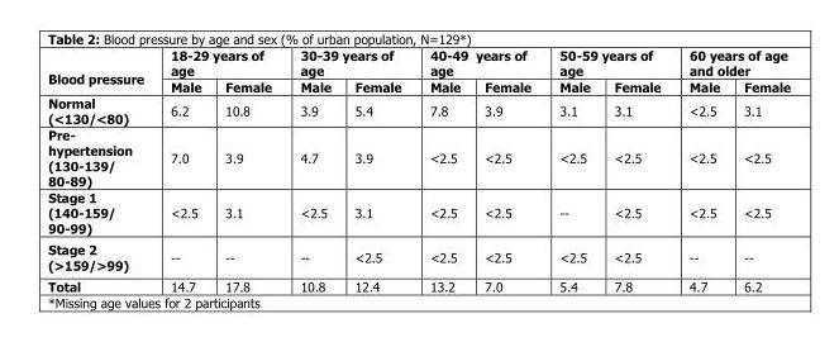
<table><thead><tr><td rowspan="2">Blood pressure</td><td colspan="2">18-29 years of age</td><td colspan="2">30-39 years of age</td><td colspan="2">40-49 years of age</td><td colspan="2">50-59 years of age</td><td colspan="2">60 years of age and older</td></tr><tr><td>Male</td><td>Female</td><td>Male</td><td>Female</td><td>Male</td><td>Female</td><td>Male</td><td>Female</td><td>Male</td><td>Female</td></tr></thead><tbody><tr><td>Normal (&lt;130/&lt;80)</td><td>6.2</td><td>10.8</td><td>3.9</td><td>5.4</td><td>7.8</td><td>3.9</td><td>3.1</td><td>3.1</td><td>&lt;2.5</td><td>3.1</td></tr><tr><td>Pre- hypertension (130-139/ 80-89)</td><td>7.0</td><td>3.9</td><td>4.7</td><td>3.9</td><td>&lt;2.5</td><td>&lt;2.5</td><td>&lt;2.5</td><td>&lt;2.5</td><td>&lt;2.5</td><td>&lt;2.5</td></tr><tr><td>Stage 1 (140-159/ 90-99)</td><td>&lt;2.5</td><td>3.1</td><td>&lt;2.5</td><td>3.1</td><td>&lt;2.5</td><td>&lt;2.5</td><td>--</td><td>&lt;2.5</td><td>&lt;2.5</td><td>&lt;2.5</td></tr><tr><td>Stage 2 (&gt;159/&gt;99)</td><td>--</td><td>--</td><td>--</td><td>&lt;2.5</td><td>&lt;2.5</td><td>&lt;2.5</td><td>&lt;2.5</td><td>&lt;2.5</td><td>--</td><td>--</td></tr><tr><td>Total</td><td>14.7</td><td>17.8</td><td>10.8</td><td>12.4</td><td>13.2</td><td>7.0</td><td>5.4</td><td>7.8</td><td>4.7</td><td>6.2</td></tr></tbody></table>